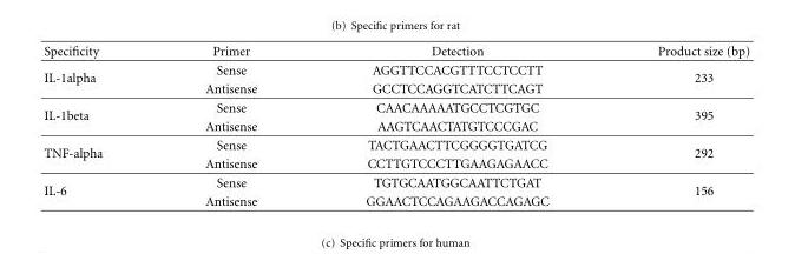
<table><thead><tr><td>Specificity</td><td>Primer</td><td>Detection</td><td>Product size (bp)</td></tr></thead><tbody><tr><td rowspan="2">IL-1alpha</td><td>Sense</td><td>AGGTTCCACGTTTCCTCCTT</td><td rowspan="2">233</td></tr><tr><td>Antisense</td><td>GCCTCCAGGTCATCTTCAGT</td></tr><tr><td rowspan="2">IL-1beta</td><td>Sense</td><td>CAACAAAAATGCCTCGTGC</td><td rowspan="2">395</td></tr><tr><td>Antisense</td><td>AAGTCAACTATGTCCCGAC</td></tr><tr><td rowspan="2">TNF-alpha</td><td>Sense</td><td>TACTGAACTTCGGGGTGATCG</td><td rowspan="2">292</td></tr><tr><td>Antisense</td><td>CCTTGTCCCTTGAAGAGAACC</td></tr><tr><td rowspan="2">IL-6</td><td>Sense</td><td>TGTGCAATGGCAATTCTGAT</td><td rowspan="2">156</td></tr><tr><td>Antisense</td><td>GGAACTCCAGAAGACCAGAGC</td></tr></tbody></table>